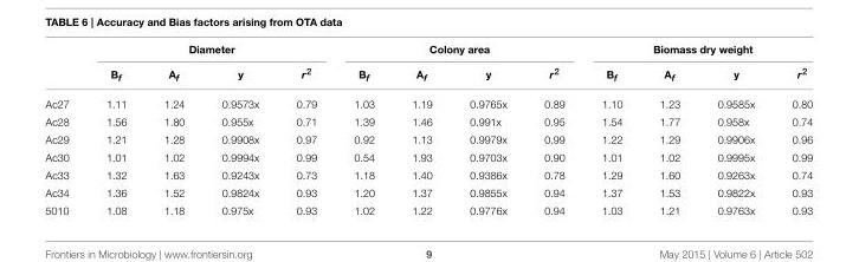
<table><thead><tr><td rowspan="2"></td><td colspan="4">Diameter</td><td colspan="4">Colony area</td><td colspan="4">Biomass dry weight</td></tr><tr><td>B<sub>f</sub></td><td>A<sub>f</sub></td><td>y</td><td>r<sup>2</sup></td><td>B<sub>f</sub></td><td>A<sub>f</sub></td><td>y</td><td>r<sup>2</sup></td><td>B<sub>f</sub></td><td>A<sub>f</sub></td><td>y</td><td>r<sup>2</sup></td></tr></thead><tbody><tr><td>Ac27</td><td>1.11</td><td>1.24</td><td>0.9573x</td><td>0.79</td><td>1.03</td><td>1.19</td><td>0.9765x</td><td>0.89</td><td>1.10</td><td>1.23</td><td>0.9585x</td><td>0.80</td></tr><tr><td>Ac28</td><td>1.56</td><td>1.80</td><td>0.955x</td><td>0.71</td><td>1.39</td><td>1.46</td><td>0.991x</td><td>0.95</td><td>1.54</td><td>1.77</td><td>0.958x</td><td>0.74</td></tr><tr><td>Ac29</td><td>1.21</td><td>1.28</td><td>0.9908x</td><td>0.97</td><td>0.92</td><td>1.13</td><td>0.9979x</td><td>0.99</td><td>1.22</td><td>1.29</td><td>0.9906x</td><td>0.96</td></tr><tr><td>Ac30</td><td>1.01</td><td>1.02</td><td>0.9994x</td><td>0.99</td><td>0.54</td><td>1.93</td><td>0.9703x</td><td>0.90</td><td>1.01</td><td>1.02</td><td>0.9995x</td><td>0.99</td></tr><tr><td>Ac33</td><td>1.32</td><td>1.63</td><td>0.9243x</td><td>0.73</td><td>1.18</td><td>1.40</td><td>0.9386x</td><td>0.78</td><td>1.29</td><td>1.60</td><td>0.9263x</td><td>0.74</td></tr><tr><td>Ac34</td><td>1.36</td><td>1.52</td><td>0.9824x</td><td>0.93</td><td>1.20</td><td>1.37</td><td>0.9855x</td><td>0.94</td><td>1.37</td><td>1.53</td><td>0.9822x</td><td>0.93</td></tr><tr><td>5010</td><td>1.08</td><td>1.18</td><td>0.975x</td><td>0.93</td><td>1.02</td><td>1.22</td><td>0.9776x</td><td>0.94</td><td>1.03</td><td>1.21</td><td>0.9763x</td><td>0.93</td></tr></tbody></table>